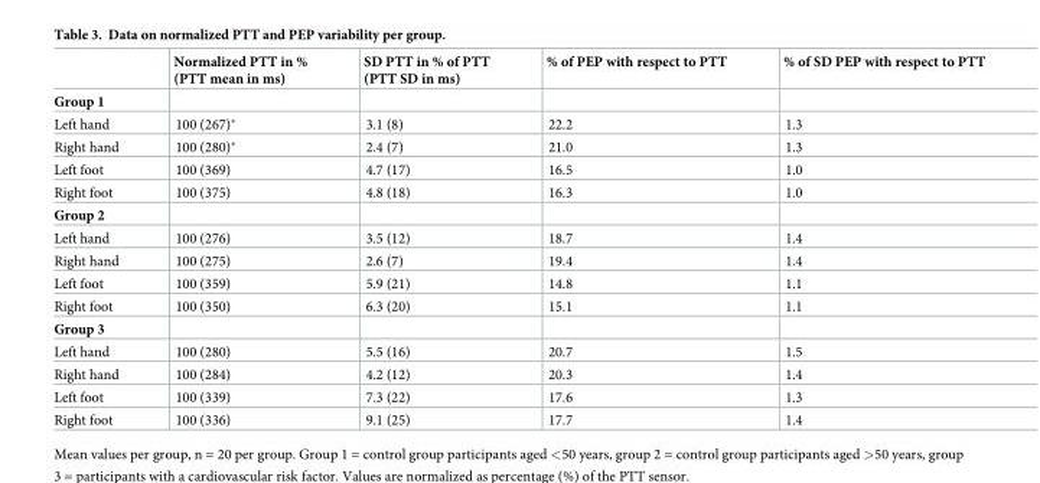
<table><thead><tr><td></td><td>Normalized PTT in % (PTT mean in ms)</td><td>SD PTT in % of PTT (PTT SD in ms)</td><td>% of PEP with respect to PTT</td><td>% of SD PEP with respect to PTT</td></tr></thead><tbody><tr><td colspan="5">Group 1</td></tr><tr><td>Left hand</td><td>100 (267)*</td><td>3.1 (8)</td><td>22.2</td><td>1.3</td></tr><tr><td>Right hand</td><td>100 (280)*</td><td>2.4 (7)</td><td>21.0</td><td>1.3</td></tr><tr><td>Left foot</td><td>100 (369)</td><td>4.7 (17)</td><td>16.5</td><td>1.0</td></tr><tr><td>Right foot</td><td>100 (375)</td><td>4.8 (18)</td><td>16.3</td><td>1.0</td></tr><tr><td colspan="5">Group 2</td></tr><tr><td>Left hand</td><td>100 (276)</td><td>3.5 (12)</td><td>18.7</td><td>1.4</td></tr><tr><td>Right hand</td><td>100 (275)</td><td>2.6 (7)</td><td>19.4</td><td>1.4</td></tr><tr><td>Left foot</td><td>100 (359)</td><td>5.9 (21)</td><td>14.8</td><td>1.1</td></tr><tr><td>Right foot</td><td>100 (350)</td><td>6.3 (20)</td><td>15.1</td><td>1.1</td></tr><tr><td colspan="5">Group 3</td></tr><tr><td>Left hand</td><td>100 (280)</td><td>5.5 (16)</td><td>20.7</td><td>1.5</td></tr><tr><td>Right hand</td><td>100 (284)</td><td>4.2 (12)</td><td>20.3</td><td>1.4</td></tr><tr><td>Left foot</td><td>100 (339)</td><td>7.3 (22)</td><td>17.6</td><td>1.3</td></tr><tr><td>Right foot</td><td>100 (336)</td><td>9.1 (25)</td><td>17.7</td><td>1.4</td></tr></tbody></table>